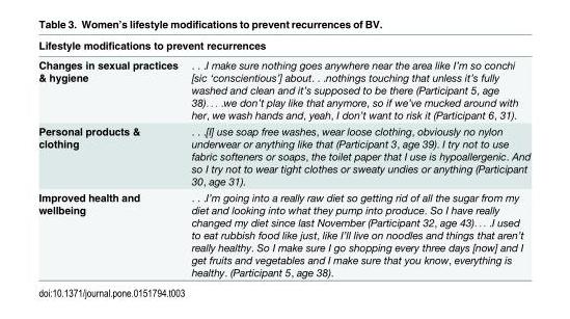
<table><thead><tr><td colspan="2">Lifestyle modifications to prevent recurrences</td></tr><tr><td>Changes in sexual practices &amp; hygiene</td><td>. . .I make sure nothing goes anywhere near the area like I’m so conchi [sic ‘conscientious’] about. . .nothings touching that unless it’s fully washed and clean and it’s supposed to be there (Participant 5, age 38). . . .we don’t play like that anymore, so if we’ve mucked around with her, we wash hands and, yeah, I don’t want to risk it (Participant 6, 31).</td></tr></thead><tbody><tr><td>Personal products &amp; clothing</td><td>. . .[I] use soap free washes, wear loose clothing, obviously no nylon underwear or anything like that (Participant 3, age 39). I try not to use fabric softeners or soaps, the toilet paper that I use is hypoallergenic. And so I try not to wear tight clothes or sweaty undies or anything (Participant 30, age 31).</td></tr><tr><td>Improved health and wellbeing</td><td>. . .I’m going into a really raw diet so getting rid of all the sugar from my diet and looking into what they pump into produce. So I have really changed my diet since last November (Participant 32, age 43). . . .I used to eat rubbish food like just, like I’ll live on noodles and things that aren’t really healthy. So I make sure I go shopping every three days [now] and I get fruits and vegetables and I make sure that you know, everything is healthy. (Participant 5, age 38).</td></tr></tbody></table>